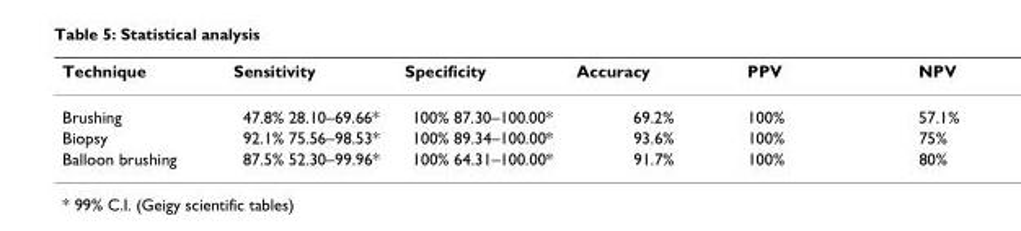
<table><thead><tr><td>Technique</td><td>Sensitivity</td><td>Specificity</td><td>Accuracy</td><td>PPV</td><td>NPV</td></tr></thead><tbody><tr><td>Brushing</td><td>47.8% 28.10–69.66*</td><td>100% 87.30–100.00*</td><td>69.2%</td><td>100%</td><td>57.1%</td></tr><tr><td>Biopsy</td><td>92.1% 75.56–98.53*</td><td>100% 89.34–100.00*</td><td>93.6%</td><td>100%</td><td>75%</td></tr><tr><td>Balloon brushing</td><td>87.5% 52.30–99.96*</td><td>100% 64.31–100.00*</td><td>91.7%</td><td>100%</td><td>80%</td></tr></tbody></table>